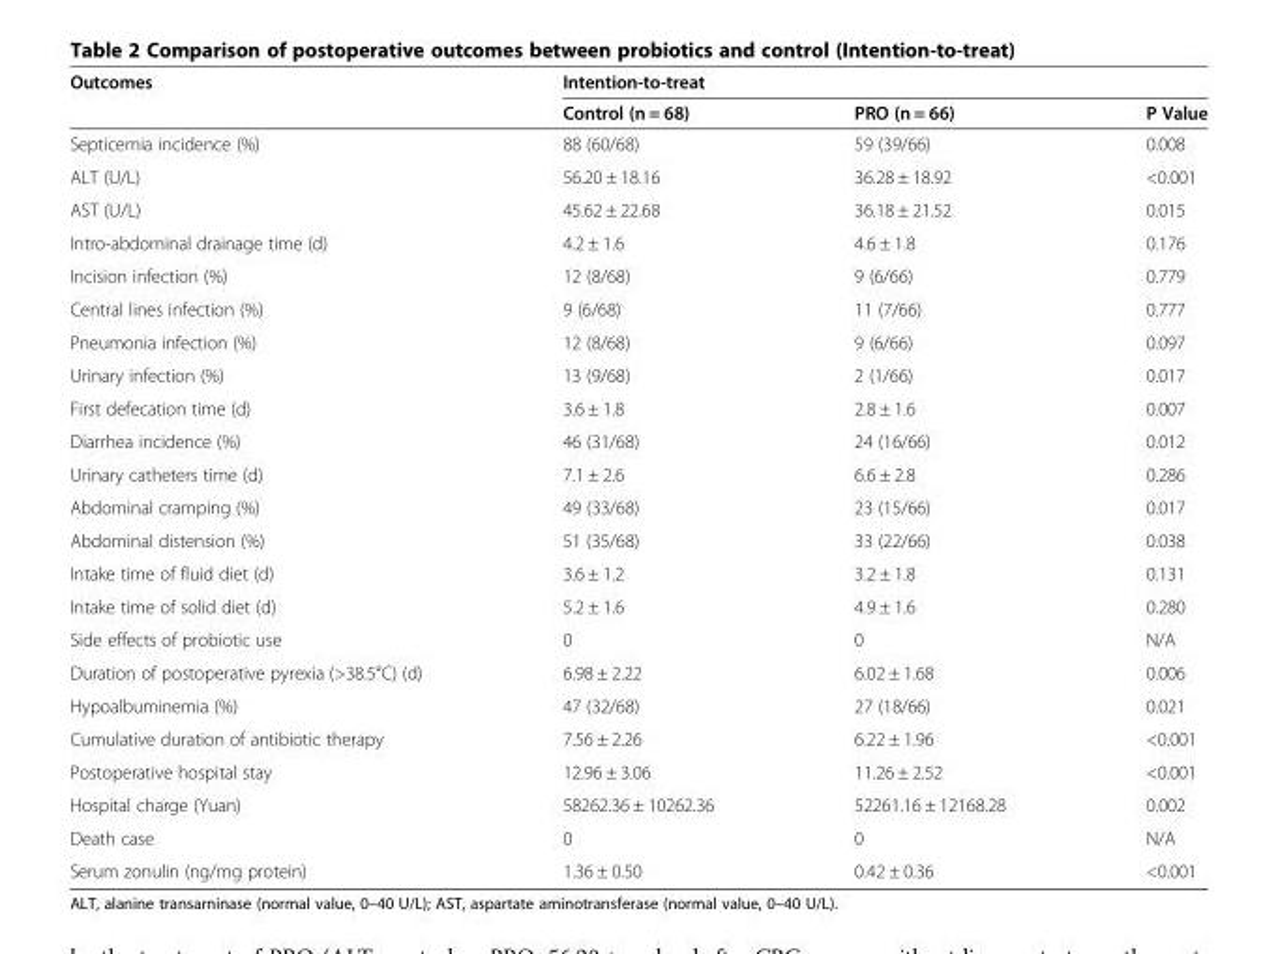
<table><thead><tr><td rowspan="2">Outcomes</td><td colspan="3">Intention-to-treat</td></tr><tr><td>Control (n = 68)</td><td>PRO (n = 66)</td><td>P Value</td></tr></thead><tbody><tr><td>Septicemia incidence (%)</td><td>88 (60/68)</td><td>59 (39/66)</td><td>0.008</td></tr><tr><td>ALT (U/L)</td><td>56.20 ± 18.16</td><td>36.28 ± 18.92</td><td>&lt;0.001</td></tr><tr><td>AST (U/L)</td><td>45.62 ± 22.68</td><td>36.18 ± 21.52</td><td>0.015</td></tr><tr><td>Intro-abdominal drainage time (d)</td><td>4.2 ± 1.6</td><td>4.6 ± 1.8</td><td>0.176</td></tr><tr><td>Incision infection (%)</td><td>12 (8/68)</td><td>9 (6/66)</td><td>0.779</td></tr><tr><td>Central lines infection (%)</td><td>9 (6/68)</td><td>11 (7/66)</td><td>0.777</td></tr><tr><td>Pneumonia infection (%)</td><td>12 (8/68)</td><td>9 (6/66)</td><td>0.097</td></tr><tr><td>Urinary infection (%)</td><td>13 (9/68)</td><td>2 (1/66)</td><td>0.017</td></tr><tr><td>First defecation time (d)</td><td>3.6 ± 1.8</td><td>2.8 ± 1.6</td><td>0.007</td></tr><tr><td>Diarrhea incidence (%)</td><td>46 (31/68)</td><td>24 (16/66)</td><td>0.012</td></tr><tr><td>Urinary catheters time (d)</td><td>7.1 ± 2.6</td><td>6.6 ± 2.8</td><td>0.286</td></tr><tr><td>Abdominal cramping (%)</td><td>49 (33/68)</td><td>23 (15/66)</td><td>0.017</td></tr><tr><td>Abdominal distension (%)</td><td>51 (35/68)</td><td>33 (22/66)</td><td>0.038</td></tr><tr><td>Intake time of fluid diet (d)</td><td>3.6 ± 1.2</td><td>3.2 ± 1.8</td><td>0.131</td></tr><tr><td>Intake time of solid diet (d)</td><td>5.2 ± 1.6</td><td>4.9 ± 1.6</td><td>0.280</td></tr><tr><td>Side effects of probiotic use</td><td>0</td><td>0</td><td>N/A</td></tr><tr><td>Duration of postoperative pyrexia (&gt;38.5°C) (d)</td><td>6.98 ± 2.22</td><td>6.02 ± 1.68</td><td>0.006</td></tr><tr><td>Hypoalbuminemia (%)</td><td>47 (32/68)</td><td>27 (18/66)</td><td>0.021</td></tr><tr><td>Cumulative duration of antibiotic therapy</td><td>7.56 ± 2.26</td><td>6.22 ± 1.96</td><td>&lt;0.001</td></tr><tr><td>Postoperative hospital stay</td><td>12.96 ± 3.06</td><td>11.26 ± 2.52</td><td>&lt;0.001</td></tr><tr><td>Hospital charge (Yuan)</td><td>58262.36 ± 10262.36</td><td>52261.16 ± 12168.28</td><td>0.002</td></tr><tr><td>Death case</td><td>0</td><td>0</td><td>N/A</td></tr><tr><td>Serum zonulin (ng/mg protein)</td><td>1.36 ± 0.50</td><td>0.42 ± 0.36</td><td>&lt;0.001</td></tr></tbody></table>